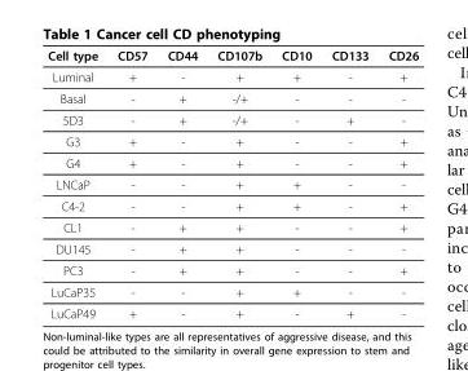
<table><thead><tr><td>Cell type</td><td>CD57</td><td>CD44</td><td>CD107b</td><td>CD10</td><td>CD133</td><td>CD26</td></tr></thead><tbody><tr><td>Luminal</td><td>+</td><td>-</td><td>+</td><td>+</td><td>-</td><td>+</td></tr><tr><td>Basal</td><td>-</td><td>+</td><td>-/+</td><td>-</td><td>-</td><td>-</td></tr><tr><td>5D3</td><td>-</td><td>+</td><td>-/+</td><td>-</td><td>+</td><td>-</td></tr><tr><td>G3</td><td>+</td><td>-</td><td>+</td><td>-</td><td>-</td><td>+</td></tr><tr><td>G4</td><td>+</td><td>-</td><td>+</td><td>-</td><td>-</td><td>+</td></tr><tr><td>LNCaP</td><td>-</td><td>-</td><td>+</td><td>+</td><td>-</td><td>-</td></tr><tr><td>C4-2</td><td>-</td><td>-</td><td>+</td><td>+</td><td>-</td><td>+</td></tr><tr><td>CL1</td><td>-</td><td>+</td><td>+</td><td>-</td><td>-</td><td>+</td></tr><tr><td>DU145</td><td>-</td><td>+</td><td>+</td><td>-</td><td>-</td><td>-</td></tr><tr><td>PC3</td><td>-</td><td>+</td><td>+</td><td>-</td><td>-</td><td>+</td></tr><tr><td>LuCaP35</td><td>-</td><td>-</td><td>+</td><td>+</td><td>-</td><td>-</td></tr><tr><td>LuCaP49</td><td>+</td><td>-</td><td>+</td><td>-</td><td>+</td><td>-</td></tr></tbody></table>